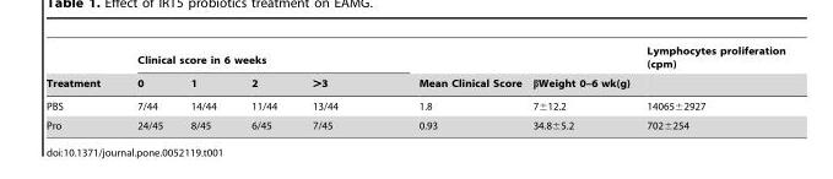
<table><thead><tr><td rowspan="2">Treatment</td><td colspan="4">Clinical score in 6 weeks</td><td rowspan="2">Mean Clinical Score</td><td rowspan="2">βWeight 0–6 wk(g)</td><td rowspan="2">Lymphocytes proliferation (cpm)</td></tr><tr><td>0</td><td>1</td><td>2</td><td>&gt;3</td></tr></thead><tbody><tr><td>PBS</td><td>7/44</td><td>14/44</td><td>11/44</td><td>13/44</td><td>1.8</td><td>7±12.2</td><td>14065±2927</td></tr><tr><td>Pro</td><td>24/45</td><td>8/45</td><td>6/45</td><td>7/45</td><td>0.93</td><td>34.8±5.2</td><td>702±254</td></tr></tbody></table>